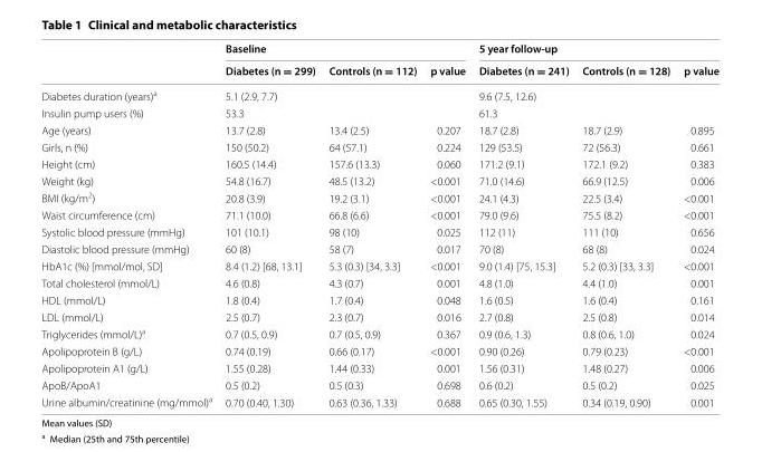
<table><thead><tr><td rowspan="2"></td><td colspan="3">Baseline</td><td colspan="3">5 year follow-up</td></tr><tr><td>Diabetes (n = 299)</td><td>Controls (n = 112)</td><td>p value</td><td>Diabetes (n = 241)</td><td>Controls (n = 128)</td><td>p value</td></tr></thead><tbody><tr><td>Diabetes duration (years)<sup>a</sup></td><td>5.1 (2.9, 7.7)</td><td></td><td></td><td>9.6 (7.5, 12.6)</td><td></td><td></td></tr><tr><td>Insulin pump users (%)</td><td>53.3</td><td></td><td></td><td>61.3</td><td></td><td></td></tr><tr><td>Age (years)</td><td>13.7 (2.8)</td><td>13.4 (2.5)</td><td>0.207</td><td>18.7 (2.8)</td><td>18.7 (2.9)</td><td>0.895</td></tr><tr><td>Girls, n (%)</td><td>150 (50.2)</td><td>64 (57.1)</td><td>0.224</td><td>129 (53.5)</td><td>72 (56.3)</td><td>0.661</td></tr><tr><td>Height (cm)</td><td>160.5 (14.4)</td><td>157.6 (13.3)</td><td>0.060</td><td>171.2 (9.1)</td><td>172.1 (9.2)</td><td>0.383</td></tr><tr><td>Weight (kg)</td><td>54.8 (16.7)</td><td>48.5 (13.2)</td><td>&lt;0.001</td><td>71.0 (14.6)</td><td>66.9 (12.5)</td><td>0.006</td></tr><tr><td>BMI (kg/m<sup>2</sup>)</td><td>20.8 (3.9)</td><td>19.2 (3.1)</td><td>&lt;0.001</td><td>24.1 (4.3)</td><td>22.5 (3.4)</td><td>&lt;0.001</td></tr><tr><td>Waist circumference (cm)</td><td>71.1 (10.0)</td><td>66.8 (6.6)</td><td>&lt;0.001</td><td>79.0 (9.6)</td><td>75.5 (8.2)</td><td>&lt;0.001</td></tr><tr><td>Systolic blood pressure (mmHg)</td><td>101 (10.1)</td><td>98 (10)</td><td>0.025</td><td>112 (11)</td><td>111 (10)</td><td>0.656</td></tr><tr><td>Diastolic blood pressure (mmHg)</td><td>60 (8)</td><td>58 (7)</td><td>0.017</td><td>70 (8)</td><td>68 (8)</td><td>0.024</td></tr><tr><td>HbA1c (%) [mmol/mol, SD]</td><td>8.4 (1.2) [68, 13.1]</td><td>5.3 (0.3) [34, 3.3]</td><td>&lt;0.001</td><td>9.0 (1.4) [75, 15.3]</td><td>5.2 (0.3) [33, 3.3]</td><td>&lt;0.001</td></tr><tr><td>Total cholesterol (mmol/L)</td><td>4.6 (0.8)</td><td>4.3 (0.7)</td><td>0.001</td><td>4.8 (1.0)</td><td>4.4 (1.0)</td><td>0.001</td></tr><tr><td>HDL (mmol/L)</td><td>1.8 (0.4)</td><td>1.7 (0.4)</td><td>0.048</td><td>1.6 (0.5)</td><td>1.6 (0.4)</td><td>0.161</td></tr><tr><td>LDL (mmol/L)</td><td>2.5 (0.7)</td><td>2.3 (0.7)</td><td>0.016</td><td>2.7 (0.8)</td><td>2.5 (0.8)</td><td>0.014</td></tr><tr><td>Triglycerides (mmol/L)<sup>a</sup></td><td>0.7 (0.5, 0.9)</td><td>0.7 (0.5, 0.9)</td><td>0.367</td><td>0.9 (0.6, 1.3)</td><td>0.8 (0.6, 1.0)</td><td>0.024</td></tr><tr><td>Apolipoprotein B (g/L)</td><td>0.74 (0.19)</td><td>0.66 (0.17)</td><td>&lt;0.001</td><td>0.90 (0.26)</td><td>0.79 (0.23)</td><td>&lt;0.001</td></tr><tr><td>Apolipoprotein A1 (g/L)</td><td>1.55 (0.28)</td><td>1.44 (0.33)</td><td>0.001</td><td>1.56 (0.31)</td><td>1.48 (0.27)</td><td>0.006</td></tr><tr><td>ApoB/ApoA1</td><td>0.5 (0.2)</td><td>0.5 (0.3)</td><td>0.698</td><td>0.6 (0.2)</td><td>0.5 (0.2)</td><td>0.025</td></tr><tr><td>Urine albumin/creatinine (mg/mmol)<sup>a</sup></td><td>0.70 (0.40, 1.30)</td><td>0.63 (0.36, 1.33)</td><td>0.688</td><td>0.65 (0.30, 1.55)</td><td>0.34 (0.19, 0.90)</td><td>0.001</td></tr></tbody></table>